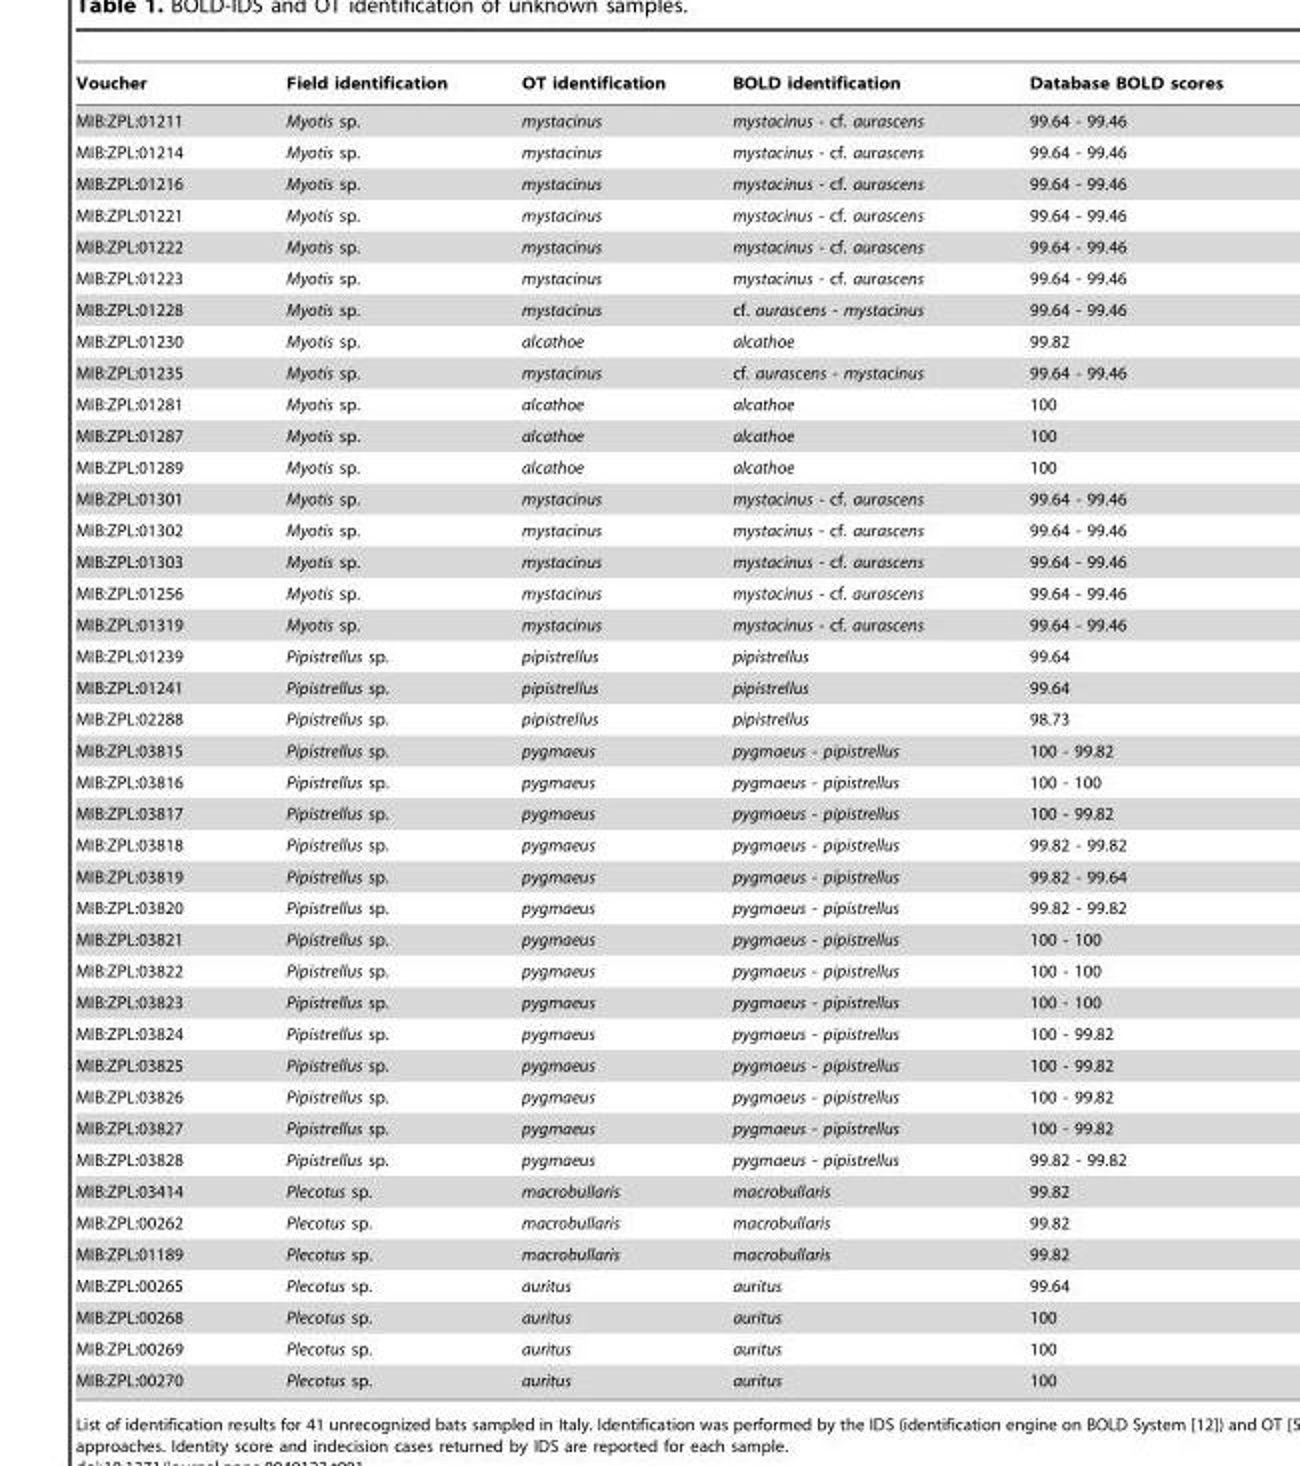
<table><thead><tr><td>Voucher</td><td>Field identification</td><td>OT identification</td><td>BOLD identification</td><td>Database BOLD scores</td></tr></thead><tbody><tr><td>MIB:ZPL:01211</td><td>Myotis sp.</td><td>mystacinus</td><td>mystacinus - cf. aurascens</td><td>99.64 - 99.46</td></tr><tr><td>MIB:ZPL:01214</td><td>Myotis sp.</td><td>mystacinus</td><td>mystacinus - cf. aurascens</td><td>99.64 - 99.46</td></tr><tr><td>MIB:ZPL:01216</td><td>Myotis sp.</td><td>mystacinus</td><td>mystacinus - cf. aurascens</td><td>99.64 - 99.46</td></tr><tr><td>MIB:ZPL:01221</td><td>Myotis sp.</td><td>mystacinus</td><td>mystacinus - cf. aurascens</td><td>99.64 - 99.46</td></tr><tr><td>MIB:ZPL:01222</td><td>Myotis sp.</td><td>mystacinus</td><td>mystacinus - cf. aurascens</td><td>99.64 - 99.46</td></tr><tr><td>MIB:ZPL:01223</td><td>Myotis sp.</td><td>mystacinus</td><td>mystacinus - cf. aurascens</td><td>99.64 - 99.46</td></tr><tr><td>MIB:ZPL:01228</td><td>Myotis sp.</td><td>mystacinus</td><td>cf. aurascens - mystacinus</td><td>99.64 - 99.46</td></tr><tr><td>MIB:ZPL:01230</td><td>Myotis sp.</td><td>alcathoe</td><td>alcathoe</td><td>99.82</td></tr><tr><td>MIB:ZPL:01235</td><td>Myotis sp.</td><td>mystacinus</td><td>cf. aurascens - mystacinus</td><td>99.64 - 99.46</td></tr><tr><td>MIB:ZPL:01281</td><td>Myotis sp.</td><td>alcathoe</td><td>alcathoe</td><td>100</td></tr><tr><td>MIB:ZPL:01287</td><td>Myotis sp.</td><td>alcathoe</td><td>alcathoe</td><td>100</td></tr><tr><td>MIB:ZPL:01289</td><td>Myotis sp.</td><td>alcathoe</td><td>alcathoe</td><td>100</td></tr><tr><td>MIB:ZPL:01301</td><td>Myotis sp.</td><td>mystacinus</td><td>mystacinus - cf. aurascens</td><td>99.64 - 99.46</td></tr><tr><td>MIB:ZPL:01302</td><td>Myotis sp.</td><td>mystacinus</td><td>mystacinus - cf. aurascens</td><td>99.64 - 99.46</td></tr><tr><td>MIB:ZPL:01303</td><td>Myotis sp.</td><td>mystacinus</td><td>mystacinus - cf. aurascens</td><td>99.64 - 99.46</td></tr><tr><td>MIB:ZPL:01256</td><td>Myotis sp.</td><td>mystacinus</td><td>mystacinus - cf. aurascens</td><td>99.64 - 99.46</td></tr><tr><td>MIB:ZPL:01319</td><td>Myotis sp.</td><td>mystacinus</td><td>mystacinus - cf. aurascens</td><td>99.64 - 99.46</td></tr><tr><td>MIB:ZPL:01239</td><td>Pipistrellus sp.</td><td>pipistrellus</td><td>pipistrellus</td><td>99.64</td></tr><tr><td>MIB:ZPL:01241</td><td>Pipistrellus sp.</td><td>pipistrellus</td><td>pipistrellus</td><td>99.64</td></tr><tr><td>MIB:ZPL:02288</td><td>Pipistrellus sp.</td><td>pipistrellus</td><td>pipistrellus</td><td>98.73</td></tr><tr><td>MIB:ZPL:03815</td><td>Pipistrellus sp.</td><td>pygmaeus</td><td>pygmaeus - pipistrellus</td><td>100 - 99.82</td></tr><tr><td>MIB:ZPL:03816</td><td>Pipistrellus sp.</td><td>pygmaeus</td><td>pygmaeus - pipistrellus</td><td>100 - 100</td></tr><tr><td>MIB:ZPL:03817</td><td>Pipistrellus sp.</td><td>pygmaeus</td><td>pygmaeus - pipistrellus</td><td>100 - 99.82</td></tr><tr><td>MIB:ZPL:03818</td><td>Pipistrellus sp.</td><td>pygmaeus</td><td>pygmaeus - pipistrellus</td><td>99.82 - 99.82</td></tr><tr><td>MIB:ZPL:03819</td><td>Pipistrellus sp.</td><td>pygmaeus</td><td>pygmaeus - pipistrellus</td><td>99.82 - 99.64</td></tr><tr><td>MIB:ZPL:03820</td><td>Pipistrellus sp.</td><td>pygmaeus</td><td>pygmaeus - pipistrellus</td><td>99.82 - 99.82</td></tr><tr><td>MIB:ZPL:03821</td><td>Pipistrellus sp.</td><td>pygmaeus</td><td>pygmaeus - pipistrellus</td><td>100 - 100</td></tr><tr><td>MIB:ZPL:03822</td><td>Pipistrellus sp.</td><td>pygmaeus</td><td>pygmaeus - pipistrellus</td><td>100 - 100</td></tr><tr><td>MIB:ZPL:03823</td><td>Pipistrellus sp.</td><td>pygmaeus</td><td>pygmaeus - pipistrellus</td><td>100 - 100</td></tr><tr><td>MIB:ZPL:03824</td><td>Pipistrellus sp.</td><td>pygmaeus</td><td>pygmaeus - pipistrellus</td><td>100 - 99.82</td></tr><tr><td>MIB:ZPL:03825</td><td>Pipistrellus sp.</td><td>pygmaeus</td><td>pygmaeus - pipistrellus</td><td>100 - 99.82</td></tr><tr><td>MIB:ZPL:03826</td><td>Pipistrellus sp.</td><td>pygmaeus</td><td>pygmaeus - pipistrellus</td><td>100 - 99.82</td></tr><tr><td>MIB:ZPL:03827</td><td>Pipistrellus sp.</td><td>pygmaeus</td><td>pygmaeus - pipistrellus</td><td>100 - 99.82</td></tr><tr><td>MIB:ZPL:03828</td><td>Pipistrellus sp.</td><td>pygmaeus</td><td>pygmaeus - pipistrellus</td><td>99.82 - 99.82</td></tr><tr><td>MIB:ZPL:03414</td><td>Plecotus sp.</td><td>macrobullaris</td><td>macrobullaris</td><td>99.82</td></tr><tr><td>MIB:ZPL:00262</td><td>Plecotus sp.</td><td>macrobullaris</td><td>macrobullaris</td><td>99.82</td></tr><tr><td>MIB:ZPL:01189</td><td>Plecotus sp.</td><td>macrobullaris</td><td>macrobullaris</td><td>99.82</td></tr><tr><td>MIB:ZPL:00265</td><td>Plecotus sp.</td><td>auritus</td><td>auritus</td><td>99.64</td></tr><tr><td>MIB:ZPL:00268</td><td>Plecotus sp.</td><td>auritus</td><td>auritus</td><td>100</td></tr><tr><td>MIB:ZPL:00269</td><td>Plecotus sp.</td><td>auritus</td><td>auritus</td><td>100</td></tr><tr><td>MIB:ZPL:00270</td><td>Plecotus sp.</td><td>auritus</td><td>auritus</td><td>100</td></tr></tbody></table>